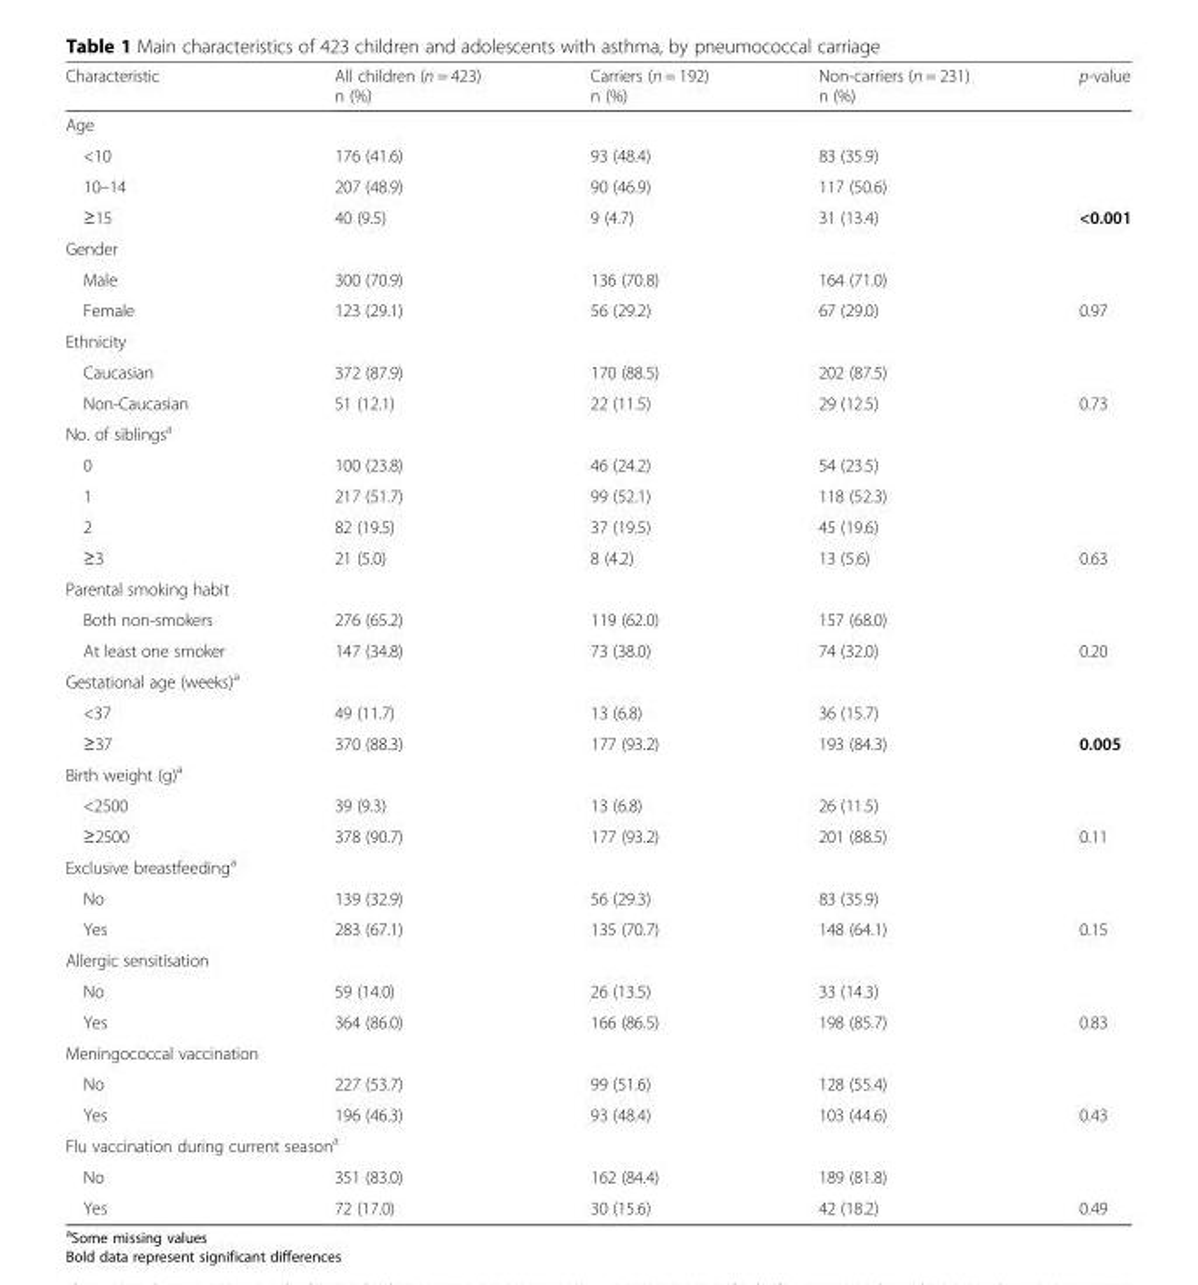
<table><thead><tr><td>Characteristic</td><td>All children (n = 423) n (%)</td><td>Carriers (n = 192) n (%)</td><td>Non-carriers (n = 231) n (%)</td><td>p-value</td></tr></thead><tbody><tr><td colspan="5">Age</td></tr><tr><td>&lt;10</td><td>176 (41.6)</td><td>93 (48.4)</td><td>83 (35.9)</td><td></td></tr><tr><td>10–14</td><td>207 (48.9)</td><td>90 (46.9)</td><td>117 (50.6)</td><td></td></tr><tr><td>≥15</td><td>40 (9.5)</td><td>9 (4.7)</td><td>31 (13.4)</td><td>&lt;0.001</td></tr><tr><td colspan="5">Gender</td></tr><tr><td>Male</td><td>300 (70.9)</td><td>136 (70.8)</td><td>164 (71.0)</td><td></td></tr><tr><td>Female</td><td>123 (29.1)</td><td>56 (29.2)</td><td>67 (29.0)</td><td>0.97</td></tr><tr><td colspan="5">Ethnicity</td></tr><tr><td>Caucasian</td><td>372 (87.9)</td><td>170 (88.5)</td><td>202 (87.5)</td><td></td></tr><tr><td>Non-Caucasian</td><td>51 (12.1)</td><td>22 (11.5)</td><td>29 (12.5)</td><td>0.73</td></tr><tr><td colspan="5">No. of siblings<sup>a</sup></td></tr><tr><td>0</td><td>100 (23.8)</td><td>46 (24.2)</td><td>54 (23.5)</td><td></td></tr><tr><td>1</td><td>217 (51.7)</td><td>99 (52.1)</td><td>118 (52.3)</td><td></td></tr><tr><td>2</td><td>82 (19.5)</td><td>37 (19.5)</td><td>45 (19.6)</td><td></td></tr><tr><td>≥3</td><td>21 (5.0)</td><td>8 (4.2)</td><td>13 (5.6)</td><td>0.63</td></tr><tr><td colspan="5">Parental smoking habit</td></tr><tr><td>Both non-smokers</td><td>276 (65.2)</td><td>119 (62.0)</td><td>157 (68.0)</td><td></td></tr><tr><td>At least one smoker</td><td>147 (34.8)</td><td>73 (38.0)</td><td>74 (32.0)</td><td>0.20</td></tr><tr><td colspan="5">Gestational age (weeks)<sup>a</sup></td></tr><tr><td>&lt;37</td><td>49 (11.7)</td><td>13 (6.8)</td><td>36 (15.7)</td><td></td></tr><tr><td>≥37</td><td>370 (88.3)</td><td>177 (93.2)</td><td>193 (84.3)</td><td>0.005</td></tr><tr><td colspan="5">Birth weight (g)<sup>a</sup></td></tr><tr><td>&lt;2500</td><td>39 (9.3)</td><td>13 (6.8)</td><td>26 (11.5)</td><td></td></tr><tr><td>≥2500</td><td>378 (90.7)</td><td>177 (93.2)</td><td>201 (88.5)</td><td>0.11</td></tr><tr><td colspan="5">Exclusive breastfeeding<sup>a</sup></td></tr><tr><td>No</td><td>139 (32.9)</td><td>56 (29.3)</td><td>83 (35.9)</td><td></td></tr><tr><td>Yes</td><td>283 (67.1)</td><td>135 (70.7)</td><td>148 (64.1)</td><td>0.15</td></tr><tr><td colspan="5">Allergic sensitisation</td></tr><tr><td>No</td><td>59 (14.0)</td><td>26 (13.5)</td><td>33 (14.3)</td><td></td></tr><tr><td>Yes</td><td>364 (86.0)</td><td>166 (86.5)</td><td>198 (85.7)</td><td>0.83</td></tr><tr><td colspan="5">Meningococcal vaccination</td></tr><tr><td>No</td><td>227 (53.7)</td><td>99 (51.6)</td><td>128 (55.4)</td><td></td></tr><tr><td>Yes</td><td>196 (46.3)</td><td>93 (48.4)</td><td>103 (44.6)</td><td>0.43</td></tr><tr><td colspan="5">Flu vaccination during current season<sup>a</sup></td></tr><tr><td>No</td><td>351 (83.0)</td><td>162 (84.4)</td><td>189 (81.8)</td><td></td></tr><tr><td>Yes</td><td>72 (17.0)</td><td>30 (15.6)</td><td>42 (18.2)</td><td>0.49</td></tr></tbody></table>